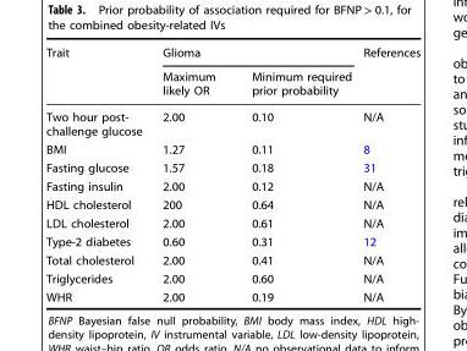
<table><thead><tr><td rowspan="2">Trait</td><td colspan="2">Glioma</td><td rowspan="2">References</td></tr><tr><td>Maximum likely OR</td><td>Minimum required prior probability</td></tr></thead><tbody><tr><td>Two hour post- challenge glucose</td><td>2.00</td><td>0.10</td><td>N/A</td></tr><tr><td>BMI</td><td>1.27</td><td>0.11</td><td>8</td></tr><tr><td>Fasting glucose</td><td>1.57</td><td>0.18</td><td>31</td></tr><tr><td>Fasting insulin</td><td>2.00</td><td>0.12</td><td>N/A</td></tr><tr><td>HDL cholesterol</td><td>200</td><td>0.64</td><td>N/A</td></tr><tr><td>LDL cholesterol</td><td>2.00</td><td>0.61</td><td>N/A</td></tr><tr><td>Type-2 diabetes</td><td>0.60</td><td>0.31</td><td>12</td></tr><tr><td>Total cholesterol</td><td>2.00</td><td>0.41</td><td>N/A</td></tr><tr><td>Triglycerides</td><td>2.00</td><td>0.60</td><td>N/A</td></tr><tr><td>WHR</td><td>2.00</td><td>0.19</td><td>N/A</td></tr></tbody></table>